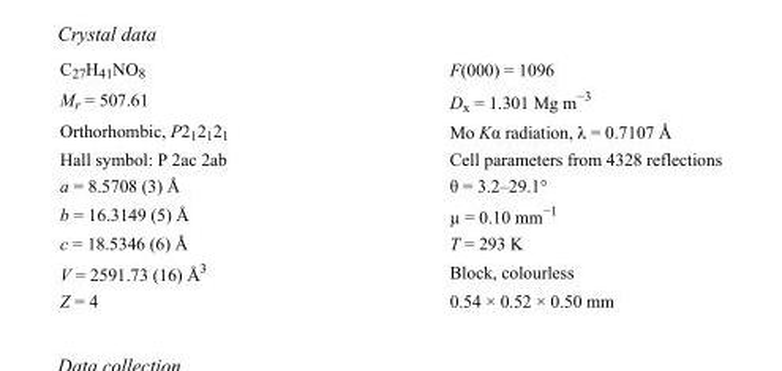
<table><tbody><tr><td>C<sub>27</sub>H<sub>41</sub>NO<sub>8</sub></td><td>F(000) = 1096</td></tr><tr><td>M<sub>r</sub> = 507.61</td><td>D<sub>x</sub> = 1.301 Mg m<sup>−3</sup></td></tr><tr><td>Orthorhombic, P2<sub>1</sub>2<sub>1</sub>2<sub>1</sub></td><td>Mo Kα radiation, λ = 0.7107 Å</td></tr><tr><td>Hall symbol: P 2ac 2ab</td><td>Cell parameters from 4328 reflections</td></tr><tr><td>a = 8.5708 (3) Å</td><td>θ = 3.2–29.1°</td></tr><tr><td>b = 16.3149 (5) Å</td><td>µ = 0.10 mm<sup>−1</sup></td></tr><tr><td>c = 18.5346 (6) Å</td><td>T = 293 K</td></tr><tr><td>V = 2591.73 (16) Å<sup>3</sup></td><td>Block, colourless</td></tr><tr><td>Z = 4</td><td>0.54 × 0.52 × 0.50 mm</td></tr></tbody></table>